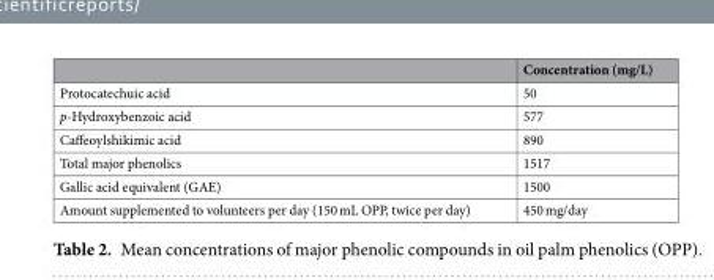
<table><thead><tr><td></td><td>Concentration (mg/L)</td></tr></thead><tbody><tr><td>Protocatechuic acid</td><td>50</td></tr><tr><td>p-Hydroxybenzoic acid</td><td>577</td></tr><tr><td>Caffeoylshikimic acid</td><td>890</td></tr><tr><td>Total major phenolics</td><td>1517</td></tr><tr><td>Gallic acid equivalent (GAE)</td><td>1500</td></tr><tr><td>Amount supplemented to volunteers per day (150 mL OPP, twice per day)</td><td>450 mg/day</td></tr></tbody></table>